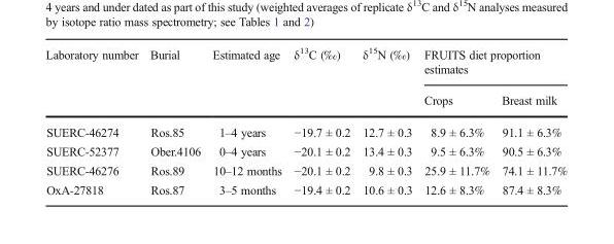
<table><thead><tr><td rowspan="2">Laboratory number</td><td rowspan="2">Burial</td><td rowspan="2">Estimated age</td><td rowspan="2">δ<sup>13</sup>C (‰)</td><td rowspan="2">δ<sup>15</sup>N (‰)</td><td colspan="2">FRUITS diet proportion estimates</td></tr><tr><td>Crops</td><td>Breast milk</td></tr></thead><tbody><tr><td>SUERC-46274</td><td>Ros.85</td><td>1–4 years</td><td>−19.7 ± 0.2</td><td>12.7 ± 0.3</td><td>8.9 ± 6.3%</td><td>91.1 ± 6.3%</td></tr><tr><td>SUERC-52377</td><td>Ober.4106</td><td>0–4 years</td><td>−20.1 ± 0.2</td><td>13.4 ± 0.3</td><td>9.5 ± 6.3%</td><td>90.5 ± 6.3%</td></tr><tr><td>SUERC-46276</td><td>Ros.89</td><td>10–12 months</td><td>−20.1 ± 0.2</td><td>9.8 ± 0.3</td><td>25.9 ± 11.7%</td><td>74.1 ± 11.7%</td></tr><tr><td>OxA-27818</td><td>Ros.87</td><td>3–5 months</td><td>−19.4 ± 0.2</td><td>10.6 ± 0.3</td><td>12.6 ± 8.3%</td><td>87.4 ± 8.3%</td></tr></tbody></table>